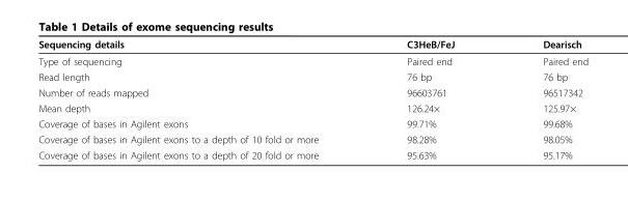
<table><thead><tr><td>Sequencing details</td><td>C3HeB/FeJ</td><td>Dearisch</td></tr></thead><tbody><tr><td>Type of sequencing</td><td>Paired end</td><td>Paired end</td></tr><tr><td>Read length</td><td>76 bp</td><td>76 bp</td></tr><tr><td>Number of reads mapped</td><td>96603761</td><td>96517342</td></tr><tr><td>Mean depth</td><td>126.24×</td><td>125.97×</td></tr><tr><td>Coverage of bases in Agilent exons</td><td>99.71%</td><td>99.68%</td></tr><tr><td>Coverage of bases in Agilent exons to a depth of 10 fold or more</td><td>98.28%</td><td>98.05%</td></tr><tr><td>Coverage of bases in Agilent exons to a depth of 20 fold or more</td><td>95.63%</td><td>95.17%</td></tr></tbody></table>